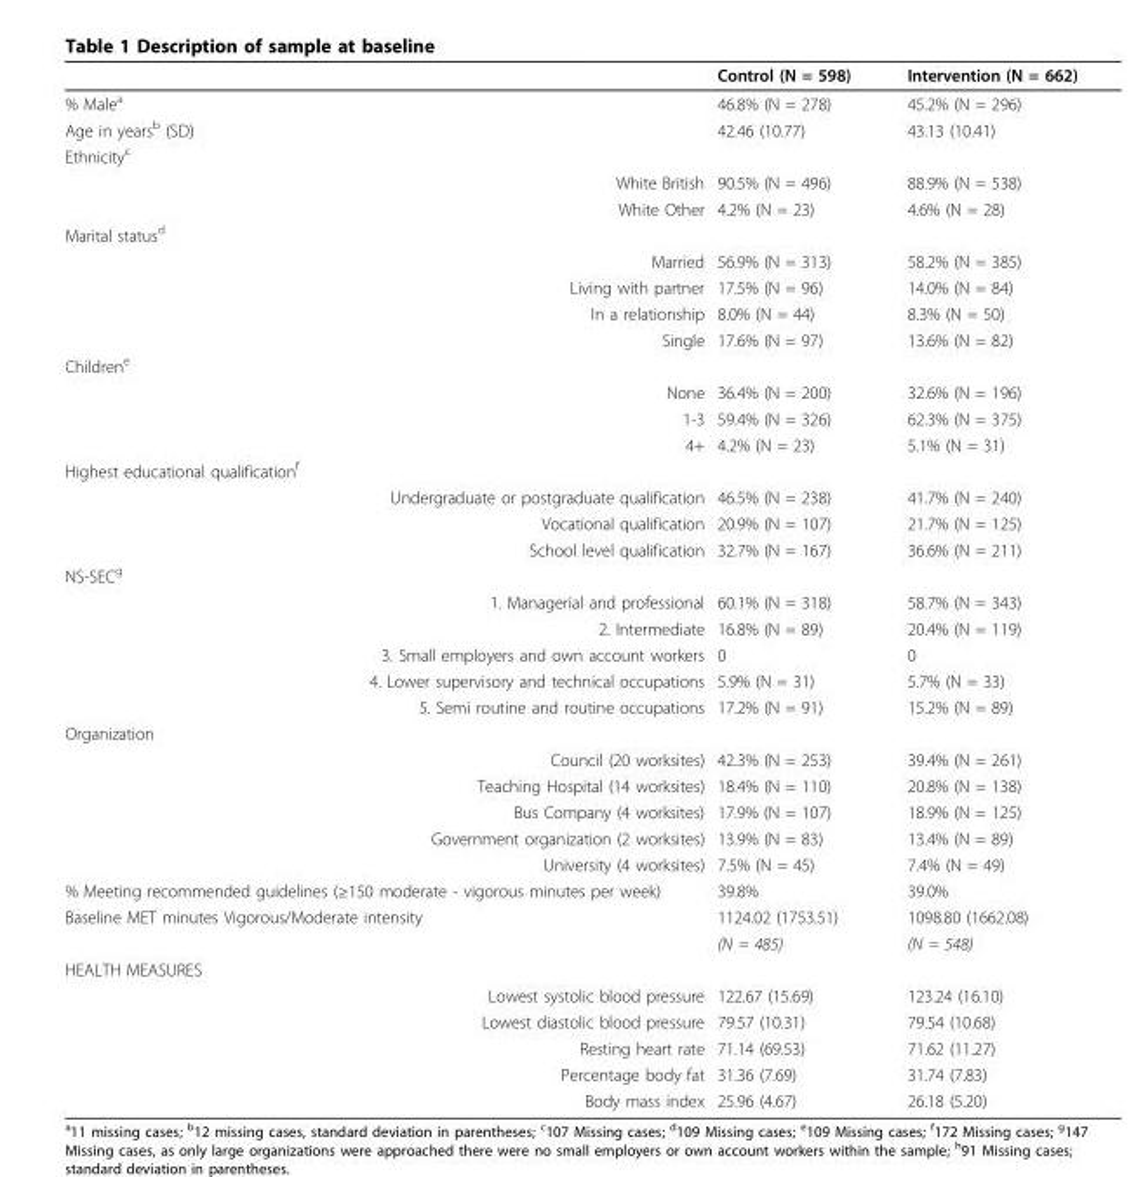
<table><thead><tr><td></td><td>Control (N = 598)</td><td>Intervention (N = 662)</td></tr></thead><tbody><tr><td>% Male<sup>a</sup></td><td>46.8% (N = 278)</td><td>45.2% (N = 296)</td></tr><tr><td>Age in years<sup>b</sup> (SD)</td><td>42.46 (10.77)</td><td>43.13 (10.41)</td></tr><tr><td colspan="3">Ethnicity<sup>c</sup></td></tr><tr><td>White British</td><td>90.5% (N = 496)</td><td>88.9% (N = 538)</td></tr><tr><td>White Other</td><td>4.2% (N = 23)</td><td>4.6% (N = 28)</td></tr><tr><td colspan="3">Marital status<sup>d</sup></td></tr><tr><td>Married</td><td>56.9% (N = 313)</td><td>58.2% (N = 385)</td></tr><tr><td>Living with partner</td><td>17.5% (N = 96)</td><td>14.0% (N = 84)</td></tr><tr><td>In a relationship</td><td>8.0% (N = 44)</td><td>8.3% (N = 50)</td></tr><tr><td>Single</td><td>17.6% (N = 97)</td><td>13.6% (N = 82)</td></tr><tr><td colspan="3">Children<sup>e</sup></td></tr><tr><td>None</td><td>36.4% (N = 200)</td><td>32.6% (N = 196)</td></tr><tr><td>1-3</td><td>59.4% (N = 326)</td><td>62.3% (N = 375)</td></tr><tr><td>4+</td><td>4.2% (N = 23)</td><td>5.1% (N = 31)</td></tr><tr><td colspan="3">Highest educational qualification<sup>f</sup></td></tr><tr><td>Undergraduate or postgraduate qualification</td><td>46.5% (N = 238)</td><td>41.7% (N = 240)</td></tr><tr><td>Vocational qualification</td><td>20.9% (N = 107)</td><td>21.7% (N = 125)</td></tr><tr><td>School level qualification</td><td>32.7% (N = 167)</td><td>36.6% (N = 211)</td></tr><tr><td colspan="3">NS-SEC<sup>g</sup></td></tr><tr><td>1. Managerial and professional</td><td>60.1% (N = 318)</td><td>58.7% (N = 343)</td></tr><tr><td>2. Intermediate</td><td>16.8% (N = 89)</td><td>20.4% (N = 119)</td></tr><tr><td>3. Small employers and own account workers</td><td>0</td><td>0</td></tr><tr><td>4. Lower supervisory and technical occupations</td><td>5.9% (N = 31)</td><td>5.7% (N = 33)</td></tr><tr><td>5. Semi routine and routine occupations</td><td>17.2% (N = 91)</td><td>15.2% (N = 89)</td></tr><tr><td colspan="3">Organization</td></tr><tr><td>Council (20 worksites)</td><td>42.3% (N = 253)</td><td>39.4% (N = 261)</td></tr><tr><td>Teaching Hospital (14 worksites)</td><td>18.4% (N = 110)</td><td>20.8% (N = 138)</td></tr><tr><td>Bus Company (4 worksites)</td><td>17.9% (N = 107)</td><td>18.9% (N = 125)</td></tr><tr><td>Government organization (2 worksites)</td><td>13.9% (N = 83)</td><td>13.4% (N = 89)</td></tr><tr><td>University (4 worksites)</td><td>7.5% (N = 45)</td><td>7.4% (N = 49)</td></tr><tr><td>% Meeting recommended guidelines (≥150 moderate - vigorous minutes per week)</td><td>39.8%</td><td>39.0%</td></tr><tr><td rowspan="2">Baseline MET minutes Vigorous/Moderate intensity</td><td>1124.02 (1753.51)</td><td>1098.80 (1662.08)</td></tr><tr><td>(N = 485)</td><td>(N = 548)</td></tr><tr><td colspan="3">HEALTH MEASURES</td></tr><tr><td>Lowest systolic blood pressure</td><td>122.67 (15.69)</td><td>123.24 (16.10)</td></tr><tr><td>Lowest diastolic blood pressure</td><td>79.57 (10.31)</td><td>79.54 (10.68)</td></tr><tr><td>Resting heart rate</td><td>71.14 (69.53)</td><td>71.62 (11.27)</td></tr><tr><td>Percentage body fat</td><td>31.36 (7.69)</td><td>31.74 (7.83)</td></tr><tr><td>Body mass index</td><td>25.96 (4.67)</td><td>26.18 (5.20)</td></tr></tbody></table>